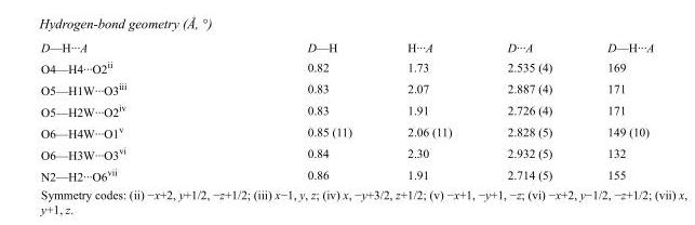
<table><tbody><tr><td>D—H···A</td><td>D—H</td><td>H···A</td><td>D···A</td><td>D—H···A</td></tr><tr><td>O4—H4···O2<sup>ii</sup></td><td>0.82</td><td>1.73</td><td>2.535 (4)</td><td>169</td></tr><tr><td>O5—H1W···O3<sup>iii</sup></td><td>0.83</td><td>2.07</td><td>2.887 (4)</td><td>171</td></tr><tr><td>O5—H2W···O2<sup>iv</sup></td><td>0.83</td><td>1.91</td><td>2.726 (4)</td><td>171</td></tr><tr><td>O6—H4W···O1<sup>v</sup></td><td>0.85 (11)</td><td>2.06 (11)</td><td>2.828 (5)</td><td>149 (10)</td></tr><tr><td>O6—H3W···O3<sup>vi</sup></td><td>0.84</td><td>2.30</td><td>2.932 (5)</td><td>132</td></tr><tr><td>N2—H2···O6<sup>vii</sup></td><td>0.86</td><td>1.91</td><td>2.714 (5)</td><td>155</td></tr></tbody></table>